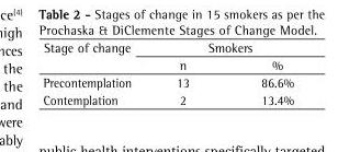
<table><thead><tr><td rowspan="2">Stage of change</td><td colspan="2">Smokers</td></tr><tr><td>n</td><td>%</td></tr></thead><tbody><tr><td>Precontemplation</td><td>13</td><td>86.6%</td></tr><tr><td>Contemplation</td><td>2</td><td>13.4%</td></tr></tbody></table>